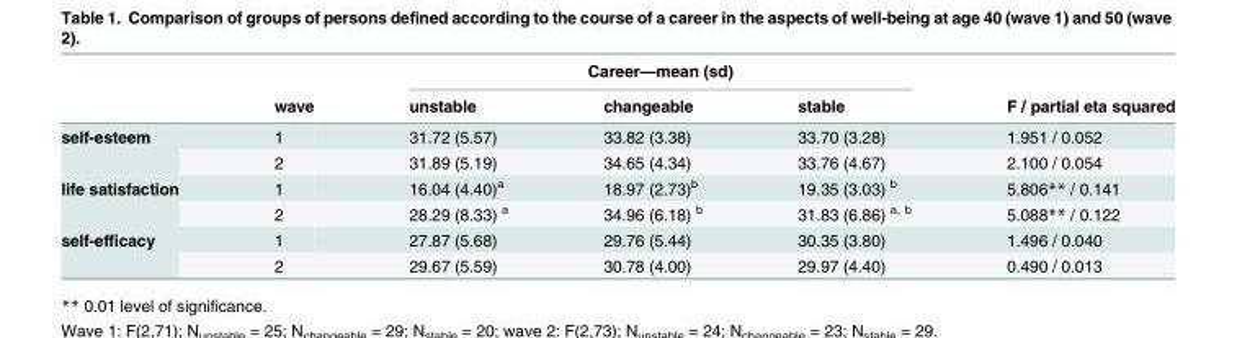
<table><thead><tr><td rowspan="2"></td><td rowspan="2">wave</td><td colspan="3">Career—mean (sd)</td><td rowspan="2">F / partial eta squared</td></tr><tr><td>unstable</td><td>changeable</td><td>stable</td></tr></thead><tbody><tr><td rowspan="2">self-esteem</td><td>1</td><td>31.72 (5.57)</td><td>33.82 (3.38)</td><td>33.70 (3.28)</td><td>1.951 / 0.052</td></tr><tr><td>2</td><td>31.89 (5.19)</td><td>34.65 (4.34)</td><td>33.76 (4.67)</td><td>2.100 / 0.054</td></tr><tr><td rowspan="2">life satisfaction</td><td>1</td><td>16.04 (4.40)<sup>a</sup></td><td>18.97 (2.73)<sup>b</sup></td><td>19.35 (3.03) <sup>b</sup></td><td>5.806** / 0.141</td></tr><tr><td>2</td><td>28.29 (8.33) <sup>a</sup></td><td>34.96 (6.18) <sup>b</sup></td><td>31.83 (6.86) <sup>a, b</sup></td><td>5.088** / 0.122</td></tr><tr><td rowspan="2">self-efficacy</td><td>1</td><td>27.87 (5.68)</td><td>29.76 (5.44)</td><td>30.35 (3.80)</td><td>1.496 / 0.040</td></tr><tr><td>2</td><td>29.67 (5.59)</td><td>30.78 (4.00)</td><td>29.97 (4.40)</td><td>0.490 / 0.013</td></tr></tbody></table>